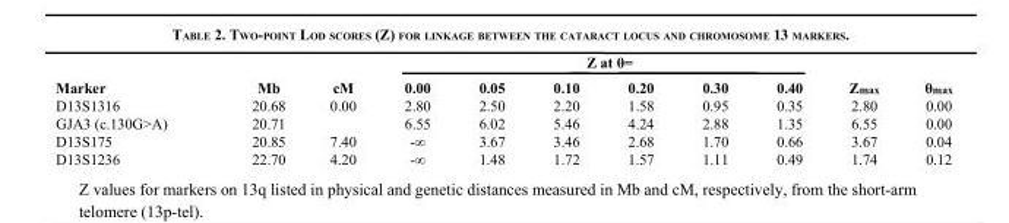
<table><thead><tr><td rowspan="2">Marker</td><td rowspan="2">Mb</td><td rowspan="2">cM</td><td colspan="6">Z at θ=</td><td rowspan="2">Z<sub>max</sub></td><td rowspan="2">θ<sub>max</sub></td></tr><tr><td>0.00</td><td>0.05</td><td>0.10</td><td>0.20</td><td>0.30</td><td>0.40</td></tr></thead><tbody><tr><td>D13S1316</td><td>20.68</td><td>0.00</td><td>2.80</td><td>2.50</td><td>2.20</td><td>1.58</td><td>0.95</td><td>0.35</td><td>2.80</td><td>0.00</td></tr><tr><td>GJA3 (c.130G&gt;A)</td><td>20.71</td><td></td><td>6.55</td><td>6.02</td><td>5.46</td><td>4.24</td><td>2.88</td><td>1.35</td><td>6.55</td><td>0.00</td></tr><tr><td>D13S175</td><td>20.85</td><td>7.40</td><td>-∞</td><td>3.67</td><td>3.46</td><td>2.68</td><td>1.70</td><td>0.66</td><td>3.67</td><td>0.04</td></tr><tr><td>D13S1236</td><td>22.70</td><td>4.20</td><td>-∞</td><td>1.48</td><td>1.72</td><td>1.57</td><td>1.11</td><td>0.49</td><td>1.74</td><td>0.12</td></tr></tbody></table>